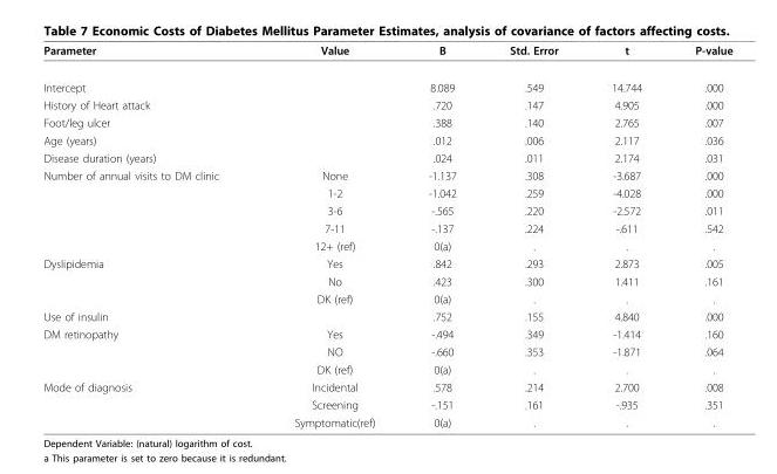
<table><thead><tr><td>Parameter</td><td>Value</td><td>B</td><td>Std. Error</td><td>t</td><td>P-value</td></tr></thead><tbody><tr><td>Intercept</td><td></td><td>8.089</td><td>.549</td><td>14.744</td><td>.000</td></tr><tr><td>History of Heart attack</td><td></td><td>.720</td><td>.147</td><td>4.905</td><td>.000</td></tr><tr><td>Foot/leg ulcer</td><td></td><td>.388</td><td>.140</td><td>2.765</td><td>.007</td></tr><tr><td>Age (years)</td><td></td><td>.012</td><td>.006</td><td>2.117</td><td>.036</td></tr><tr><td>Disease duration (years)</td><td></td><td>.024</td><td>.011</td><td>2.174</td><td>.031</td></tr><tr><td rowspan="5">Number of annual visits to DM clinic</td><td>None</td><td>-1.137</td><td>.308</td><td>-3.687</td><td>.000</td></tr><tr><td>1-2</td><td>-1.042</td><td>.259</td><td>-4.028</td><td>.000</td></tr><tr><td>3-6</td><td>-.565</td><td>.220</td><td>-2.572</td><td>.011</td></tr><tr><td>7-11</td><td>-.137</td><td>.224</td><td>-.611</td><td>.542</td></tr><tr><td>12+ (ref)</td><td>0(a)</td><td>.</td><td>.</td><td>.</td></tr><tr><td rowspan="3">Dyslipidemia</td><td>Yes</td><td>.842</td><td>.293</td><td>2.873</td><td>.005</td></tr><tr><td>No</td><td>.423</td><td>.300</td><td>1.411</td><td>.161</td></tr><tr><td>DK (ref)</td><td>0(a)</td><td>.</td><td>.</td><td>.</td></tr><tr><td>Use of insulin</td><td></td><td>.752</td><td>.155</td><td>4.840</td><td>.000</td></tr><tr><td rowspan="3">DM retinopathy</td><td>Yes</td><td>-.494</td><td>.349</td><td>-1.414</td><td>.160</td></tr><tr><td>NO</td><td>-.660</td><td>.353</td><td>-1.871</td><td>.064</td></tr><tr><td>DK (ref)</td><td>0(a)</td><td>.</td><td>.</td><td>.</td></tr><tr><td rowspan="3">Mode of diagnosis</td><td>Incidental</td><td>.578</td><td>.214</td><td>2.700</td><td>.008</td></tr><tr><td>Screening</td><td>-.151</td><td>.161</td><td>-.935</td><td>.351</td></tr><tr><td>Symptomatic(ref)</td><td>0(a)</td><td>.</td><td>.</td><td>.</td></tr></tbody></table>